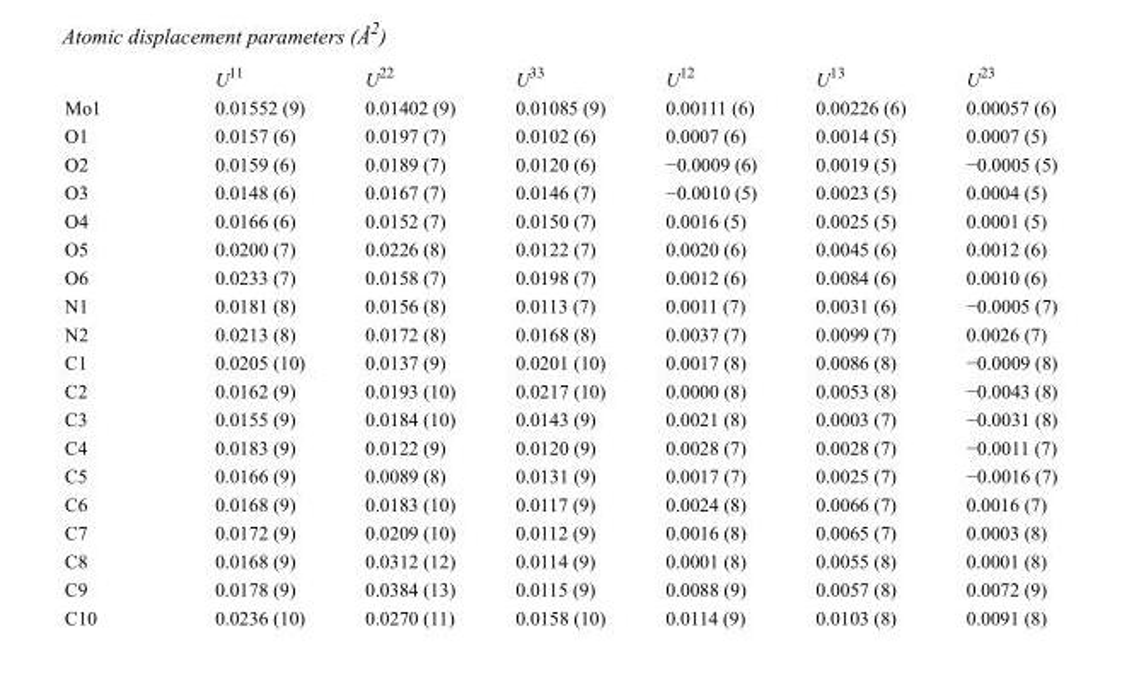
<table><thead><tr><td></td><td>U<sup>11</sup></td><td>U<sup>22</sup></td><td>U<sup>33</sup></td><td>U<sup>12</sup></td><td>U<sup>13</sup></td><td>U<sup>23</sup></td></tr></thead><tbody><tr><td>Mo1</td><td>0.01552 (9)</td><td>0.01402 (9)</td><td>0.01085 (9)</td><td>0.00111 (6)</td><td>0.00226 (6)</td><td>0.00057 (6)</td></tr><tr><td>O1</td><td>0.0157 (6)</td><td>0.0197 (7)</td><td>0.0102 (6)</td><td>0.0007 (6)</td><td>0.0014 (5)</td><td>0.0007 (5)</td></tr><tr><td>O2</td><td>0.0159 (6)</td><td>0.0189 (7)</td><td>0.0120 (6)</td><td>−0.0009 (6)</td><td>0.0019 (5)</td><td>−0.0005 (5)</td></tr><tr><td>O3</td><td>0.0148 (6)</td><td>0.0167 (7)</td><td>0.0146 (7)</td><td>−0.0010 (5)</td><td>0.0023 (5)</td><td>0.0004 (5)</td></tr><tr><td>O4</td><td>0.0166 (6)</td><td>0.0152 (7)</td><td>0.0150 (7)</td><td>0.0016 (5)</td><td>0.0025 (5)</td><td>0.0001 (5)</td></tr><tr><td>O5</td><td>0.0200 (7)</td><td>0.0226 (8)</td><td>0.0122 (7)</td><td>0.0020 (6)</td><td>0.0045 (6)</td><td>0.0012 (6)</td></tr><tr><td>O6</td><td>0.0233 (7)</td><td>0.0158 (7)</td><td>0.0198 (7)</td><td>0.0012 (6)</td><td>0.0084 (6)</td><td>0.0010 (6)</td></tr><tr><td>N1</td><td>0.0181 (8)</td><td>0.0156 (8)</td><td>0.0113 (7)</td><td>0.0011 (7)</td><td>0.0031 (6)</td><td>−0.0005 (7)</td></tr><tr><td>N2</td><td>0.0213 (8)</td><td>0.0172 (8)</td><td>0.0168 (8)</td><td>0.0037 (7)</td><td>0.0099 (7)</td><td>0.0026 (7)</td></tr><tr><td>C1</td><td>0.0205 (10)</td><td>0.0137 (9)</td><td>0.0201 (10)</td><td>0.0017 (8)</td><td>0.0086 (8)</td><td>−0.0009 (8)</td></tr><tr><td>C2</td><td>0.0162 (9)</td><td>0.0193 (10)</td><td>0.0217 (10)</td><td>0.0000 (8)</td><td>0.0053 (8)</td><td>−0.0043 (8)</td></tr><tr><td>C3</td><td>0.0155 (9)</td><td>0.0184 (10)</td><td>0.0143 (9)</td><td>0.0021 (8)</td><td>0.0003 (7)</td><td>−0.0031 (8)</td></tr><tr><td>C4</td><td>0.0183 (9)</td><td>0.0122 (9)</td><td>0.0120 (9)</td><td>0.0028 (7)</td><td>0.0028 (7)</td><td>−0.0011 (7)</td></tr><tr><td>C5</td><td>0.0166 (9)</td><td>0.0089 (8)</td><td>0.0131 (9)</td><td>0.0017 (7)</td><td>0.0025 (7)</td><td>−0.0016 (7)</td></tr><tr><td>C6</td><td>0.0168 (9)</td><td>0.0183 (10)</td><td>0.0117 (9)</td><td>0.0024 (8)</td><td>0.0066 (7)</td><td>0.0016 (7)</td></tr><tr><td>C7</td><td>0.0172 (9)</td><td>0.0209 (10)</td><td>0.0112 (9)</td><td>0.0016 (8)</td><td>0.0065 (7)</td><td>0.0003 (8)</td></tr><tr><td>C8</td><td>0.0168 (9)</td><td>0.0312 (12)</td><td>0.0114 (9)</td><td>0.0001 (8)</td><td>0.0055 (8)</td><td>0.0001 (8)</td></tr><tr><td>C9</td><td>0.0178 (9)</td><td>0.0384 (13)</td><td>0.0115 (9)</td><td>0.0088 (9)</td><td>0.0057 (8)</td><td>0.0072 (9)</td></tr><tr><td>C10</td><td>0.0236 (10)</td><td>0.0270 (11)</td><td>0.0158 (10)</td><td>0.0114 (9)</td><td>0.0103 (8)</td><td>0.0091 (8)</td></tr></tbody></table>